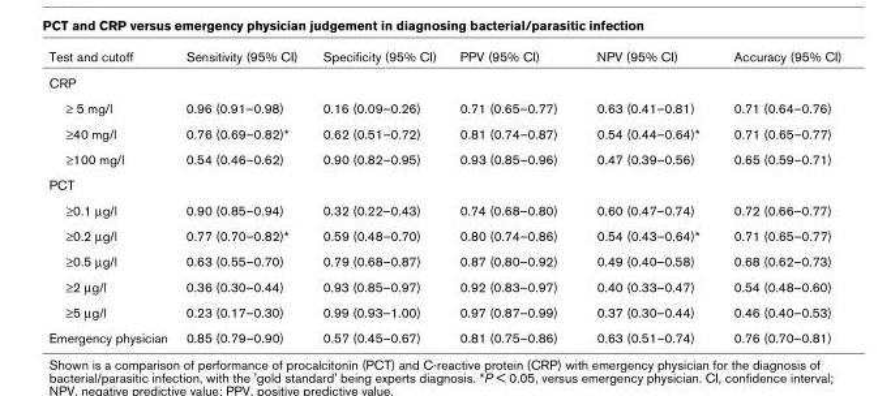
<table><thead><tr><td>Test and cutoff</td><td>Sensitivity (95% CI)</td><td>Specificity (95% CI)</td><td>PPV (95% CI)</td><td>NPV (95% CI)</td><td>Accuracy (95% CI)</td></tr></thead><tbody><tr><td colspan="6">CRP</td></tr><tr><td>≥ 5 mg/l</td><td>0.96 (0.91–0.98)</td><td>0.16 (0.09–0.26)</td><td>0.71 (0.65–0.77)</td><td>0.63 (0.41–0.81)</td><td>0.71 (0.64–0.76)</td></tr><tr><td>≥40 mg/l</td><td>0.76 (0.69–0.82)*</td><td>0.62 (0.51–0.72)</td><td>0.81 (0.74–0.87)</td><td>0.54 (0.44–0.64)*</td><td>0.71 (0.65–0.77)</td></tr><tr><td>≥100 mg/l</td><td>0.54 (0.46–0.62)</td><td>0.90 (0.82–0.95)</td><td>0.93 (0.85–0.96)</td><td>0.47 (0.39–0.56)</td><td>0.65 (0.59–0.71)</td></tr><tr><td colspan="6">PCT</td></tr><tr><td>≥0.1 μg/l</td><td>0.90 (0.85–0.94)</td><td>0.32 (0.22–0.43)</td><td>0.74 (0.68–0.80)</td><td>0.60 (0.47–0.74)</td><td>0.72 (0.66–0.77)</td></tr><tr><td>≥0.2 μg/l</td><td>0.77 (0.70–0.82)*</td><td>0.59 (0.48–0.70)</td><td>0.80 (0.74–0.86)</td><td>0.54 (0.43–0.64)*</td><td>0.71 (0.65–0.77)</td></tr><tr><td>≥0.5 μg/l</td><td>0.63 (0.55–0.70)</td><td>0.79 (0.68–0.87)</td><td>0.87 (0.80–0.92)</td><td>0.49 (0.40–0.58)</td><td>0.68 (0.62–0.73)</td></tr><tr><td>≥2 μg/l</td><td>0.36 (0.30–0.44)</td><td>0.93 (0.85–0.97)</td><td>0.92 (0.83–0.97)</td><td>0.40 (0.33–0.47)</td><td>0.54 (0.48–0.60)</td></tr><tr><td>≥5 μg/l</td><td>0.23 (0.17–0.30)</td><td>0.99 (0.93–1.00)</td><td>0.97 (0.87–0.99)</td><td>0.37 (0.30–0.44)</td><td>0.46 (0.40–0.53)</td></tr><tr><td>Emergency physician</td><td>0.85 (0.79–0.90)</td><td>0.57 (0.45–0.67)</td><td>0.81 (0.75–0.86)</td><td>0.63 (0.51–0.74)</td><td>0.76 (0.70–0.81)</td></tr></tbody></table>